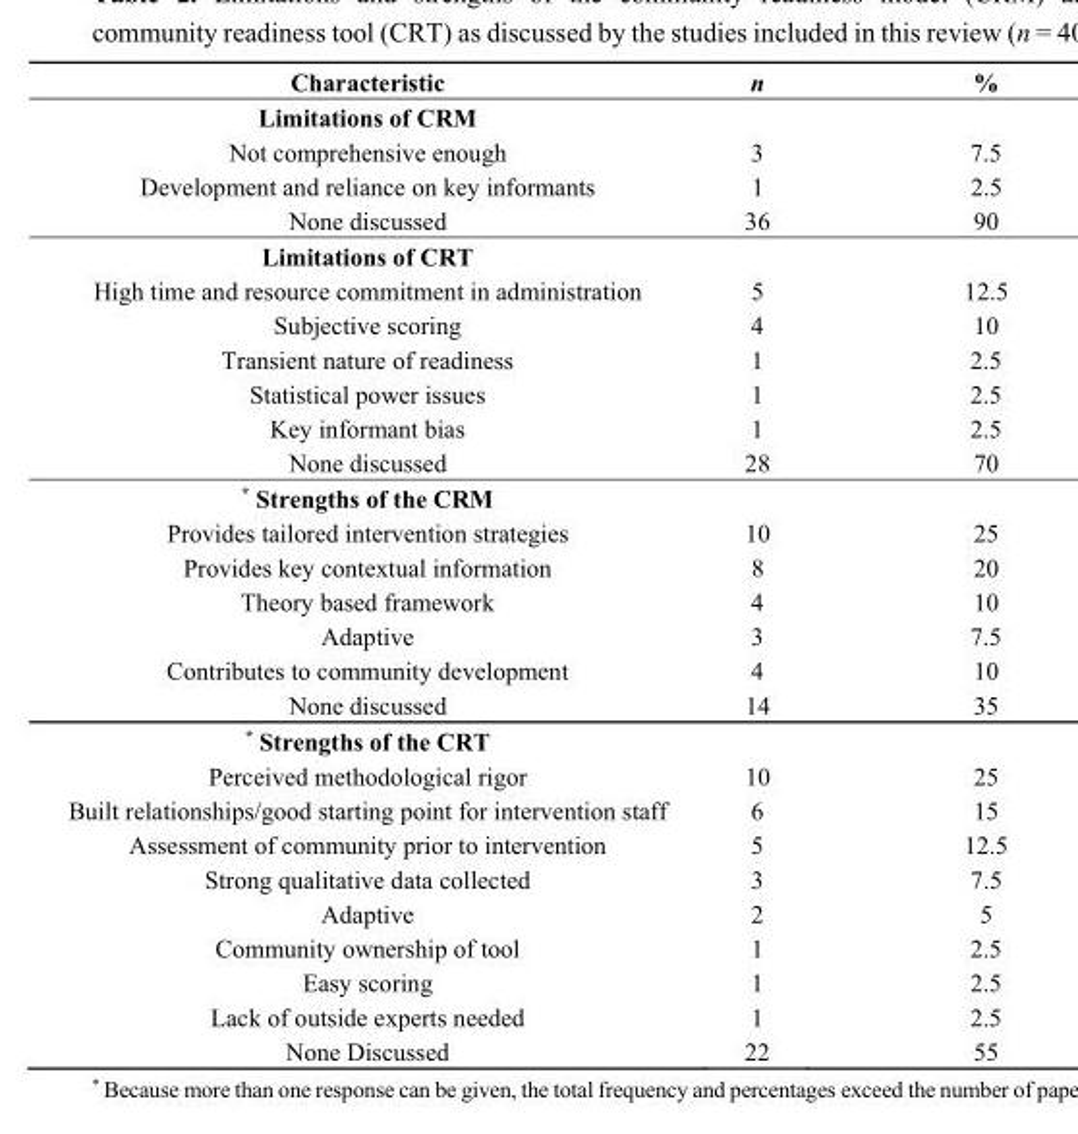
<table><thead><tr><td>Characteristic</td><td>n</td><td>%</td></tr></thead><tbody><tr><td colspan="3">Limitations of CRM</td></tr><tr><td>Not comprehensive enough</td><td>3</td><td>7.5</td></tr><tr><td>Development and reliance on key informants</td><td>1</td><td>2.5</td></tr><tr><td>None discussed</td><td>36</td><td>90</td></tr><tr><td colspan="3">Limitations of CRT</td></tr><tr><td>High time and resource commitment in administration</td><td>5</td><td>12.5</td></tr><tr><td>Subjective scoring</td><td>4</td><td>10</td></tr><tr><td>Transient nature of readiness</td><td>1</td><td>2.5</td></tr><tr><td>Statistical power issues</td><td>1</td><td>2.5</td></tr><tr><td>Key informant bias</td><td>1</td><td>2.5</td></tr><tr><td>None discussed</td><td>28</td><td>70</td></tr><tr><td colspan="3">* Strengths of the CRM</td></tr><tr><td>Provides tailored intervention strategies</td><td>10</td><td>25</td></tr><tr><td>Provides key contextual information</td><td>8</td><td>20</td></tr><tr><td>Theory based framework</td><td>4</td><td>10</td></tr><tr><td>Adaptive</td><td>3</td><td>7.5</td></tr><tr><td>Contributes to community development</td><td>4</td><td>10</td></tr><tr><td>None discussed</td><td>14</td><td>35</td></tr><tr><td colspan="3">* Strengths of the CRT</td></tr><tr><td>Perceived methodological rigor</td><td>10</td><td>25</td></tr><tr><td>Built relationships/good starting point for intervention staff</td><td>6</td><td>15</td></tr><tr><td>Assessment of community prior to intervention</td><td>5</td><td>12.5</td></tr><tr><td>Strong qualitative data collected</td><td>3</td><td>7.5</td></tr><tr><td>Adaptive</td><td>2</td><td>5</td></tr><tr><td>Community ownership of tool</td><td>1</td><td>2.5</td></tr><tr><td>Easy scoring</td><td>1</td><td>2.5</td></tr><tr><td>Lack of outside experts needed</td><td>1</td><td>2.5</td></tr><tr><td>None Discussed</td><td>22</td><td>55</td></tr></tbody></table>